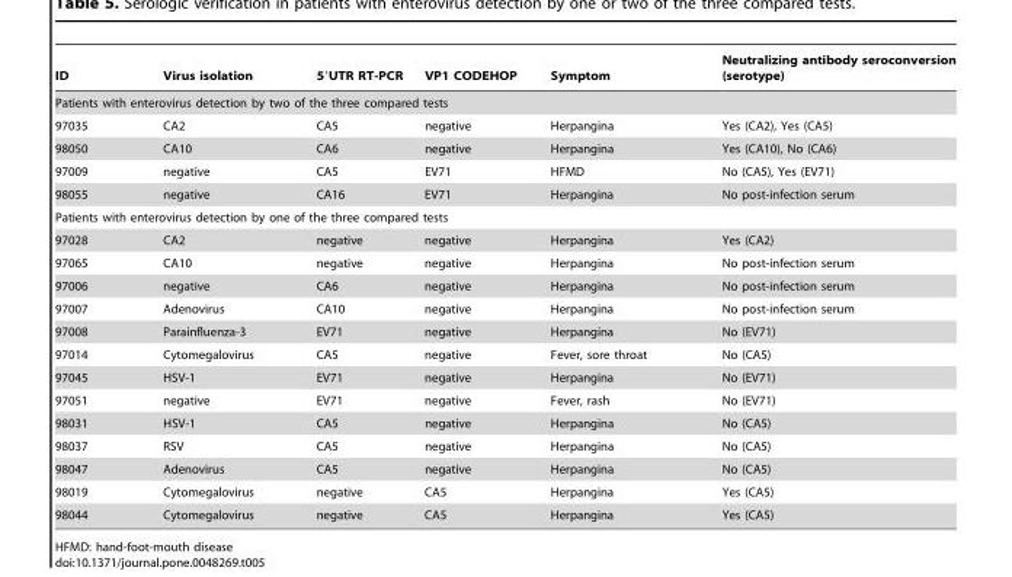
<table><thead><tr><td>ID</td><td>Virus isolation</td><td>5′UTR RT-PCR</td><td>VP1 CODEHOP</td><td>Symptom</td><td>Neutralizing antibody seroconversion (serotype)</td></tr></thead><tbody><tr><td colspan="6">Patients with enterovirus detection by two of the three compared tests</td></tr><tr><td>97035</td><td>CA2</td><td>CA5</td><td>negative</td><td>Herpangina</td><td>Yes (CA2), Yes (CA5)</td></tr><tr><td>98050</td><td>CA10</td><td>CA6</td><td>negative</td><td>Herpangina</td><td>Yes (CA10), No (CA6)</td></tr><tr><td>97009</td><td>negative</td><td>CA5</td><td>EV71</td><td>HFMD</td><td>No (CA5), Yes (EV71)</td></tr><tr><td>98055</td><td>negative</td><td>CA16</td><td>EV71</td><td>Herpangina</td><td>No post-infection serum</td></tr><tr><td colspan="6">Patients with enterovirus detection by one of the three compared tests</td></tr><tr><td>97028</td><td>CA2</td><td>negative</td><td>negative</td><td>Herpangina</td><td>Yes (CA2)</td></tr><tr><td>97065</td><td>CA10</td><td>negative</td><td>negative</td><td>Herpangina</td><td>No post-infection serum</td></tr><tr><td>97006</td><td>negative</td><td>CA6</td><td>negative</td><td>Herpangina</td><td>No post-infection serum</td></tr><tr><td>97007</td><td>Adenovirus</td><td>CA10</td><td>negative</td><td>Herpangina</td><td>No post-infection serum</td></tr><tr><td>97008</td><td>Parainfluenza-3</td><td>EV71</td><td>negative</td><td>Herpangina</td><td>No (EV71)</td></tr><tr><td>97014</td><td>Cytomegalovirus</td><td>CA5</td><td>negative</td><td>Fever, sore throat</td><td>No (CA5)</td></tr><tr><td>97045</td><td>HSV-1</td><td>EV71</td><td>negative</td><td>Herpangina</td><td>No (EV71)</td></tr><tr><td>97051</td><td>negative</td><td>EV71</td><td>negative</td><td>Fever, rash</td><td>No (EV71)</td></tr><tr><td>98031</td><td>HSV-1</td><td>CA5</td><td>negative</td><td>Herpangina</td><td>No (CA5)</td></tr><tr><td>98037</td><td>RSV</td><td>CA5</td><td>negative</td><td>Herpangina</td><td>No (CA5)</td></tr><tr><td>98047</td><td>Adenovirus</td><td>CA5</td><td>negative</td><td>Herpangina</td><td>No (CA5)</td></tr><tr><td>98019</td><td>Cytomegalovirus</td><td>negative</td><td>CA5</td><td>Herpangina</td><td>Yes (CA5)</td></tr><tr><td>98044</td><td>Cytomegalovirus</td><td>negative</td><td>CA5</td><td>Herpangina</td><td>Yes (CA5)</td></tr></tbody></table>